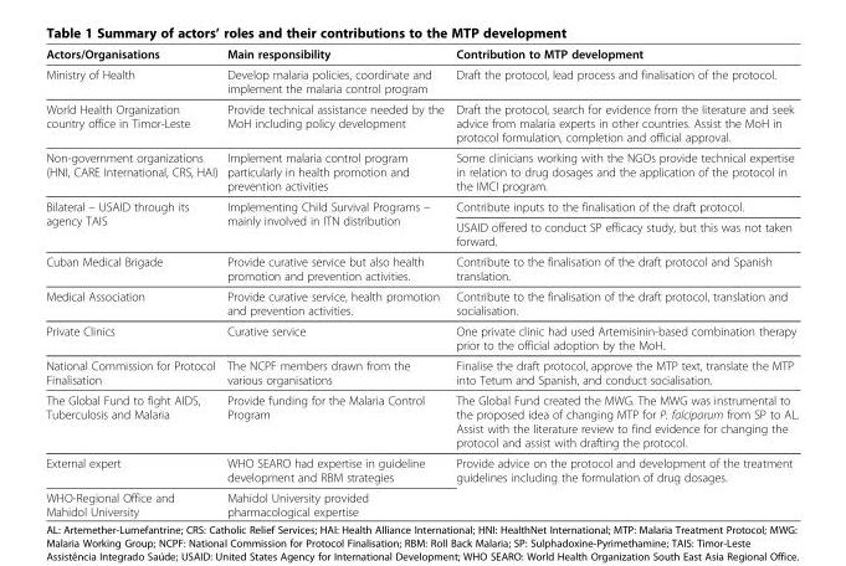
<table><thead><tr><td>Actors/Organisations</td><td>Main responsibility</td><td>Contribution to MTP development</td></tr></thead><tbody><tr><td>Ministry of Health</td><td>Develop malaria policies, coordinate and implement the malaria control program</td><td>Draft the protocol, lead process and finalisation of the protocol.</td></tr><tr><td>World Health Organization country office in Timor-Leste</td><td>Provide technical assistance needed by the MoH including policy development</td><td>Draft the protocol, search for evidence from the literature and seek advice from malaria experts in other countries. Assist the MoH in protocol formulation, completion and official approval.</td></tr><tr><td>Non-government organizations (HNI, CARE International, CRS, HAI)</td><td>Implement malaria control program particularly in health promotion and prevention activities</td><td>Some clinicians working with the NGOs provide technical expertise in relation to drug dosages and the application of the protocol in the IMCI program.</td></tr><tr><td rowspan="2">Bilateral – USAID through its agency TAIS</td><td rowspan="2">Implementing Child Survival Programs – mainly involved in ITN distribution</td><td>Contribute inputs to the finalisation of the draft protocol.</td></tr><tr><td>USAID offered to conduct SP efficacy study, but this was not taken forward.</td></tr><tr><td>Cuban Medical Brigade</td><td>Provide curative service but also health promotion and prevention activities.</td><td>Contribute to the finalisation of the draft protocol and Spanish translation.</td></tr><tr><td>Medical Association</td><td>Provide curative service, health promotion and prevention activities.</td><td>Contribute to the finalisation of the draft protocol, translation and socialisation.</td></tr><tr><td>Private Clinics</td><td>Curative service</td><td>One private clinic had used Artemisinin-based combination therapy prior to the official adoption by the MoH.</td></tr><tr><td>National Commission for Protocol Finalisation</td><td>The NCPF members drawn from the various organisations</td><td>Finalise the draft protocol, approve the MTP text, translate the MTP into Tetum and Spanish, and conduct socialisation.</td></tr><tr><td>The Global Fund to fight AIDS, Tuberculosis and Malaria</td><td>Provide funding for the Malaria Control Program</td><td>The Global Fund created the MWG. The MWG was instrumental to the proposed idea of changing MTP for P. falciparum from SP to AL. Assist with the literature review to find evidence for changing the protocol and assist with drafting the protocol.</td></tr><tr><td>External expert</td><td>WHO SEARO had expertise in guideline development and RBM strategies</td><td rowspan="2">Provide advice on the protocol and development of the treatment guidelines including the formulation of drug dosages.</td></tr><tr><td>WHO-Regional Office and Mahidol University</td><td>Mahidol University provided pharmacological expertise</td></tr></tbody></table>